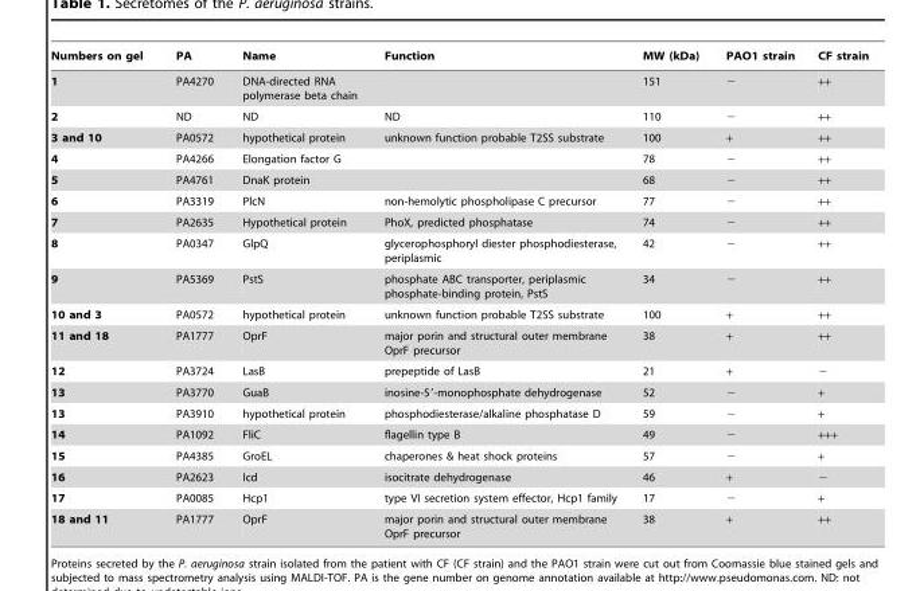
<table><thead><tr><td>Numbers on gel</td><td>PA</td><td>Name</td><td>Function</td><td>MW (kDa)</td><td>PAO1 strain</td><td>CF strain</td></tr></thead><tbody><tr><td>1</td><td>PA4270</td><td>DNA-directed RNA polymerase beta chain</td><td></td><td>151</td><td>−</td><td>++</td></tr><tr><td>2</td><td>ND</td><td>ND</td><td>ND</td><td>110</td><td>−</td><td>++</td></tr><tr><td>3 and 10</td><td>PA0572</td><td>hypothetical protein</td><td>unknown function probable T2SS substrate</td><td>100</td><td>+</td><td>++</td></tr><tr><td>4</td><td>PA4266</td><td>Elongation factor G</td><td></td><td>78</td><td>−</td><td>++</td></tr><tr><td>5</td><td>PA4761</td><td>DnaK protein</td><td></td><td>68</td><td>−</td><td>++</td></tr><tr><td>6</td><td>PA3319</td><td>PlcN</td><td>non-hemolytic phospholipase C precursor</td><td>77</td><td>−</td><td>++</td></tr><tr><td>7</td><td>PA2635</td><td>Hypothetical protein</td><td>PhoX, predicted phosphatase</td><td>74</td><td>−</td><td>++</td></tr><tr><td>8</td><td>PA0347</td><td>GlpQ</td><td>glycerophosphoryl diester phosphodiesterase, periplasmic</td><td>42</td><td>−</td><td>++</td></tr><tr><td>9</td><td>PA5369</td><td>PstS</td><td>phosphate ABC transporter, periplasmic phosphate-binding protein, PstS</td><td>34</td><td>−</td><td>++</td></tr><tr><td>10 and 3</td><td>PA0572</td><td>hypothetical protein</td><td>unknown function probable T2SS substrate</td><td>100</td><td>+</td><td>++</td></tr><tr><td>11 and 18</td><td>PA1777</td><td>OprF</td><td>major porin and structural outer membrane OprF precursor</td><td>38</td><td>+</td><td>++</td></tr><tr><td>12</td><td>PA3724</td><td>LasB</td><td>prepeptide of LasB</td><td>21</td><td>+</td><td>−</td></tr><tr><td>13</td><td>PA3770</td><td>GuaB</td><td>inosine-5′-monophosphate dehydrogenase</td><td>52</td><td>−</td><td>+</td></tr><tr><td>13</td><td>PA3910</td><td>hypothetical protein</td><td>phosphodiesterase/alkaline phosphatase D</td><td>59</td><td>−</td><td>+</td></tr><tr><td>14</td><td>PA1092</td><td>FliC</td><td>flagellin type B</td><td>49</td><td>−</td><td>+++</td></tr><tr><td>15</td><td>PA4385</td><td>GroEL</td><td>chaperones &amp; heat shock proteins</td><td>57</td><td>−</td><td>+</td></tr><tr><td>16</td><td>PA2623</td><td>Icd</td><td>isocitrate dehydrogenase</td><td>46</td><td>+</td><td>−</td></tr><tr><td>17</td><td>PA0085</td><td>Hcp1</td><td>type VI secretion system effector, Hcp1 family</td><td>17</td><td>−</td><td>+</td></tr><tr><td>18 and 11</td><td>PA1777</td><td>OprF</td><td>major porin and structural outer membrane OprF precursor</td><td>38</td><td>+</td><td>++</td></tr></tbody></table>